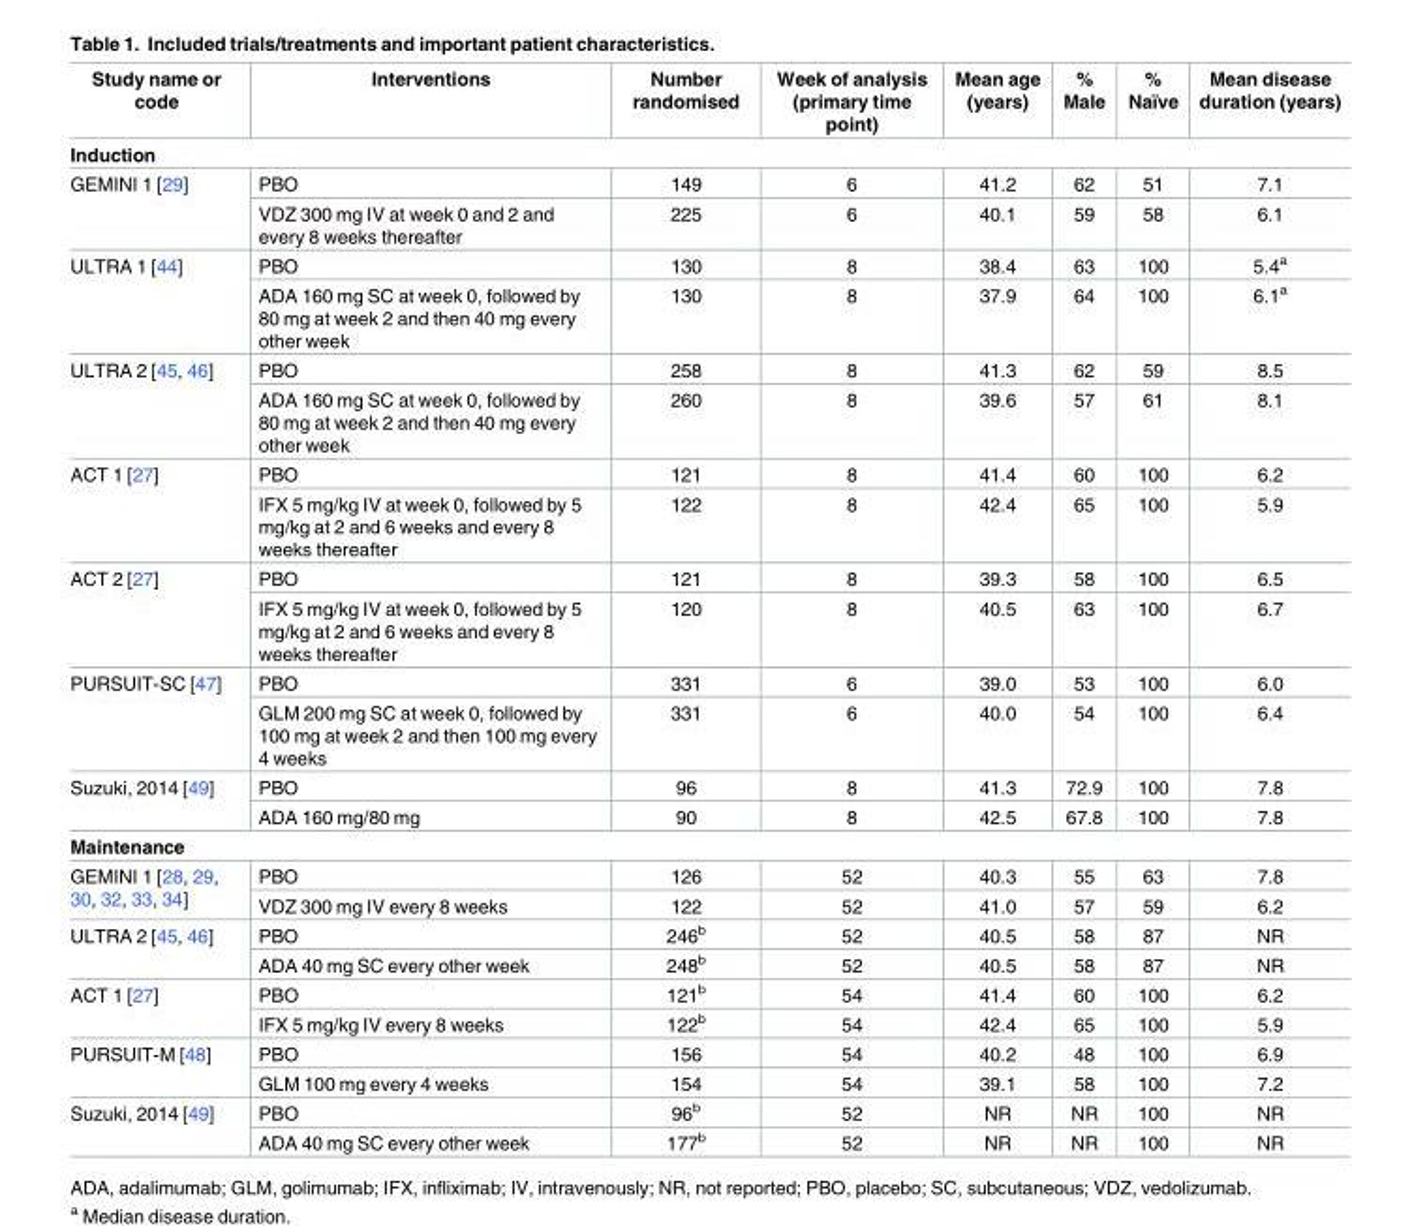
<table><thead><tr><td>Study name or code</td><td>Interventions</td><td>Number randomised</td><td>Week of analysis (primary time point)</td><td>Mean age (years)</td><td>% Male</td><td>% Naïve</td><td>Mean disease duration (years)</td></tr></thead><tbody><tr><td colspan="8">Induction</td></tr><tr><td rowspan="2">GEMINI 1 [29]</td><td>PBO</td><td>149</td><td>6</td><td>41.2</td><td>62</td><td>51</td><td>7.1</td></tr><tr><td>VDZ 300 mg IV at week 0 and 2 and every 8 weeks thereafter</td><td>225</td><td>6</td><td>40.1</td><td>59</td><td>58</td><td>6.1</td></tr><tr><td rowspan="2">ULTRA 1 [44]</td><td>PBO</td><td>130</td><td>8</td><td>38.4</td><td>63</td><td>100</td><td>5.4<sup>a</sup></td></tr><tr><td>ADA 160 mg SC at week 0, followed by 80 mg at week 2 and then 40 mg every other week</td><td>130</td><td>8</td><td>37.9</td><td>64</td><td>100</td><td>6.1<sup>a</sup></td></tr><tr><td rowspan="2">ULTRA 2 [45, 46]</td><td>PBO</td><td>258</td><td>8</td><td>41.3</td><td>62</td><td>59</td><td>8.5</td></tr><tr><td>ADA 160 mg SC at week 0, followed by 80 mg at week 2 and then 40 mg every other week</td><td>260</td><td>8</td><td>39.6</td><td>57</td><td>61</td><td>8.1</td></tr><tr><td rowspan="2">ACT 1 [27]</td><td>PBO</td><td>121</td><td>8</td><td>41.4</td><td>60</td><td>100</td><td>6.2</td></tr><tr><td>IFX 5 mg/kg IV at week 0, followed by 5 mg/kg at 2 and 6 weeks and every 8 weeks thereafter</td><td>122</td><td>8</td><td>42.4</td><td>65</td><td>100</td><td>5.9</td></tr><tr><td rowspan="2">ACT 2 [27]</td><td>PBO</td><td>121</td><td>8</td><td>39.3</td><td>58</td><td>100</td><td>6.5</td></tr><tr><td>IFX 5 mg/kg IV at week 0, followed by 5 mg/kg at 2 and 6 weeks and every 8 weeks thereafter</td><td>120</td><td>8</td><td>40.5</td><td>63</td><td>100</td><td>6.7</td></tr><tr><td rowspan="2">PURSUIT-SC [47]</td><td>PBO</td><td>331</td><td>6</td><td>39.0</td><td>53</td><td>100</td><td>6.0</td></tr><tr><td>GLM 200 mg SC at week 0, followed by 100 mg at week 2 and then 100 mg every 4 weeks</td><td>331</td><td>6</td><td>40.0</td><td>54</td><td>100</td><td>6.4</td></tr><tr><td rowspan="2">Suzuki, 2014 [49]</td><td>PBO</td><td>96</td><td>8</td><td>41.3</td><td>72.9</td><td>100</td><td>7.8</td></tr><tr><td>ADA 160 mg/80 mg</td><td>90</td><td>8</td><td>42.5</td><td>67.8</td><td>100</td><td>7.8</td></tr><tr><td colspan="8">Maintenance</td></tr><tr><td rowspan="2">GEMINI 1 [28, 29, 30, 32, 33, 34]</td><td>PBO</td><td>126</td><td>52</td><td>40.3</td><td>55</td><td>63</td><td>7.8</td></tr><tr><td>VDZ 300 mg IV every 8 weeks</td><td>122</td><td>52</td><td>41.0</td><td>57</td><td>59</td><td>6.2</td></tr><tr><td rowspan="2">ULTRA 2 [45, 46]</td><td>PBO</td><td>246<sup>b</sup></td><td>52</td><td>40.5</td><td>58</td><td>87</td><td>NR</td></tr><tr><td>ADA 40 mg SC every other week</td><td>248<sup>b</sup></td><td>52</td><td>40.5</td><td>58</td><td>87</td><td>NR</td></tr><tr><td rowspan="2">ACT 1 [27]</td><td>PBO</td><td>121<sup>b</sup></td><td>54</td><td>41.4</td><td>60</td><td>100</td><td>6.2</td></tr><tr><td>IFX 5 mg/kg IV every 8 weeks</td><td>122<sup>b</sup></td><td>54</td><td>42.4</td><td>65</td><td>100</td><td>5.9</td></tr><tr><td rowspan="2">PURSUIT-M [48]</td><td>PBO</td><td>156</td><td>54</td><td>40.2</td><td>48</td><td>100</td><td>6.9</td></tr><tr><td>GLM 100 mg every 4 weeks</td><td>154</td><td>54</td><td>39.1</td><td>58</td><td>100</td><td>7.2</td></tr><tr><td rowspan="2">Suzuki, 2014 [49]</td><td>PBO</td><td>96<sup>b</sup></td><td>52</td><td>NR</td><td>NR</td><td>100</td><td>NR</td></tr><tr><td>ADA 40 mg SC every other week</td><td>177<sup>b</sup></td><td>52</td><td>NR</td><td>NR</td><td>100</td><td>NR</td></tr></tbody></table>